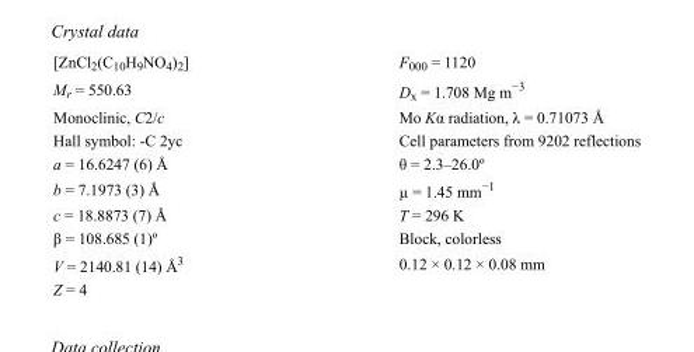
<table><tbody><tr><td>[ZnCl<sub>2</sub>(C<sub>10</sub>H<sub>9</sub>NO<sub>4</sub>)<sub>2</sub>]</td><td>F000 = 1120</td></tr><tr><td>M<sub>r</sub> = 550.63</td><td>D<sub>x</sub> = 1.708 Mg m<sup>−3</sup></td></tr><tr><td>Monoclinic, C2/c</td><td>Mo Kα radiation, λ = 0.71073 Å</td></tr><tr><td>Hall symbol: -C 2yc</td><td>Cell parameters from 9202 reflections</td></tr><tr><td>a = 16.6247 (6) Å</td><td>θ = 2.3–26.0º</td></tr><tr><td>b = 7.1973 (3) Å</td><td>µ = 1.45 mm<sup>−1</sup></td></tr><tr><td>c = 18.8873 (7) Å</td><td>T = 296 K</td></tr><tr><td>β = 108.685 (1)º</td><td>Block, colorless</td></tr><tr><td>V = 2140.81 (14) Å<sup>3</sup></td><td>0.12 × 0.12 × 0.08 mm</td></tr><tr><td>Z = 4</td><td></td></tr></tbody></table>